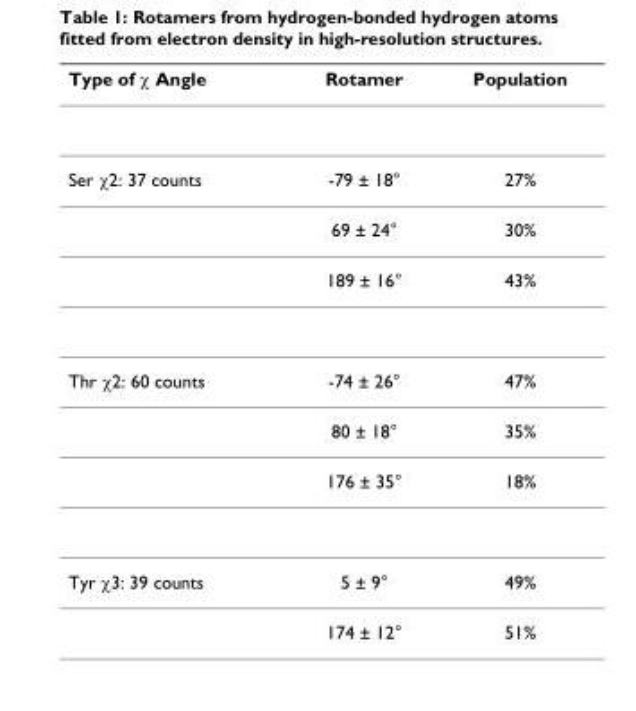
<table><thead><tr><td>Type of χ Angle</td><td>Rotamer</td><td>Population</td></tr></thead><tbody><tr><td rowspan="3">Ser χ2: 37 counts</td><td>-79 ± 18°</td><td>27%</td></tr><tr><td>69 ± 24°</td><td>30%</td></tr><tr><td>189 ± 16°</td><td>43%</td></tr><tr><td rowspan="3">Thr χ2: 60 counts</td><td>-74 ± 26°</td><td>47%</td></tr><tr><td>80 ± 18°</td><td>35%</td></tr><tr><td>176 ± 35°</td><td>18%</td></tr><tr><td rowspan="2">Tyr χ3: 39 counts</td><td>5 ± 9°</td><td>49%</td></tr><tr><td>174 ± 12°</td><td>51%</td></tr></tbody></table>